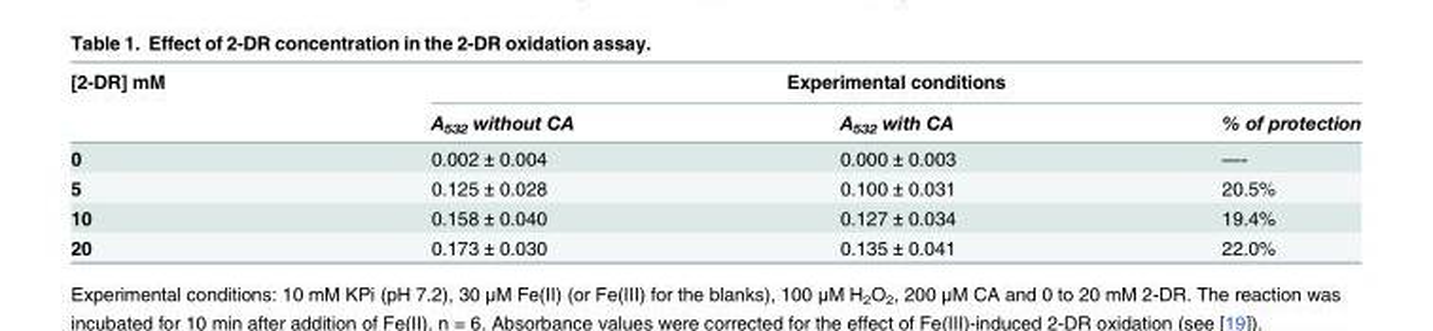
<table><thead><tr><td rowspan="2">[2-DR] mM</td><td colspan="3">Experimental conditions</td></tr><tr><td>A<sub>532</sub> without CA</td><td>A<sub>532</sub> with CA</td><td>% of protection</td></tr></thead><tbody><tr><td>0</td><td>0.002 ± 0.004</td><td>0.000 ± 0.003</td><td>—-</td></tr><tr><td>5</td><td>0.125 ± 0.028</td><td>0.100 ± 0.031</td><td>20.5%</td></tr><tr><td>10</td><td>0.158 ± 0.040</td><td>0.127 ± 0.034</td><td>19.4%</td></tr><tr><td>20</td><td>0.173 ± 0.030</td><td>0.135 ± 0.041</td><td>22.0%</td></tr></tbody></table>